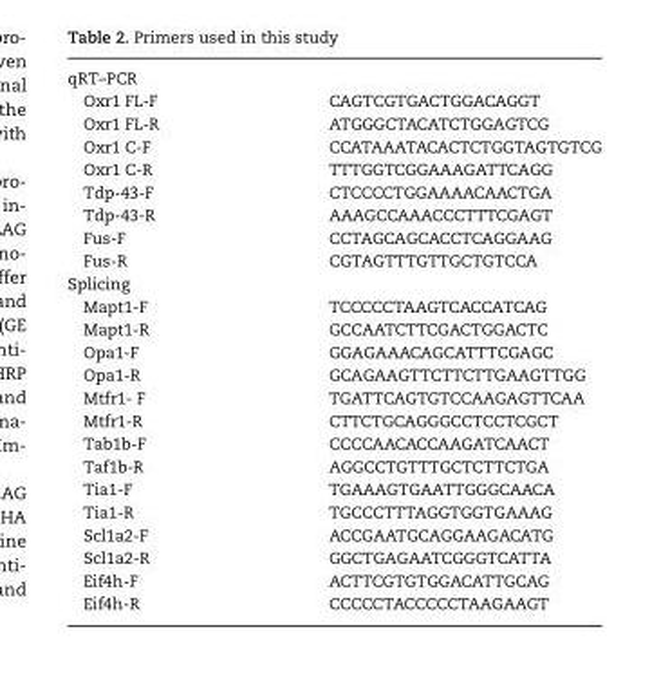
<table><tbody><tr><td colspan="2">qRT–PCR</td></tr><tr><td>Oxr1 FL-F</td><td>CAGTCGTGACTGGACAGGT</td></tr><tr><td>Oxr1 FL-R</td><td>ATGGGCTACATCTGGAGTCG</td></tr><tr><td>Oxr1 C-F</td><td>CCATAAATACACTCTGGTAGTGTCG</td></tr><tr><td>Oxr1 C-R</td><td>TTTGGTCGGAAAGATTCAGG</td></tr><tr><td>Tdp-43-F</td><td>CTCCCCTGGAAAACAACTGA</td></tr><tr><td>Tdp-43-R</td><td>AAAGCCAAACCCTTTCGAGT</td></tr><tr><td>Fus-F</td><td>CCTAGCAGCACCTCAGGAAG</td></tr><tr><td>Fus-R</td><td>CGTAGTTTGTTGCTGTCCA</td></tr><tr><td colspan="2">Splicing</td></tr><tr><td>Mapt1-F</td><td>TCCCCCTAAGTCACCATCAG</td></tr><tr><td>Mapt1-R</td><td>GCCAATCTTCGACTGGACTC</td></tr><tr><td>Opa1-F</td><td>GGAGAAACAGCATTTCGAGC</td></tr><tr><td>Opa1-R</td><td>GCAGAAGTTCTTCTTGAAGTTGG</td></tr><tr><td>Mtfr1- F</td><td>TGATTCAGTGTCCAAGAGTTCAA</td></tr><tr><td>Mtfr1-R</td><td>CTTCTGCAGGGCCTCCTCGCT</td></tr><tr><td>Tab1b-F</td><td>CCCCAACACCAAGATCAACT</td></tr><tr><td>Taf1b-R</td><td>AGGCCTGTTTGCTCTTCTGA</td></tr><tr><td>Tia1-F</td><td>TGAAAGTGAATTGGGCAACA</td></tr><tr><td>Tia1-R</td><td>TGCCCTTTAGGTGGTGAAAG</td></tr><tr><td>Scl1a2-F</td><td>ACCGAATGCAGGAAGACATG</td></tr><tr><td>Scl1a2-R</td><td>GGCTGAGAATCGGGTCATTA</td></tr><tr><td>Eif4h-F</td><td>ACTTCGTGTGGACATTGCAG</td></tr><tr><td>Eif4h-R</td><td>CCCCCTACCCCCTAAGAAGT</td></tr></tbody></table>